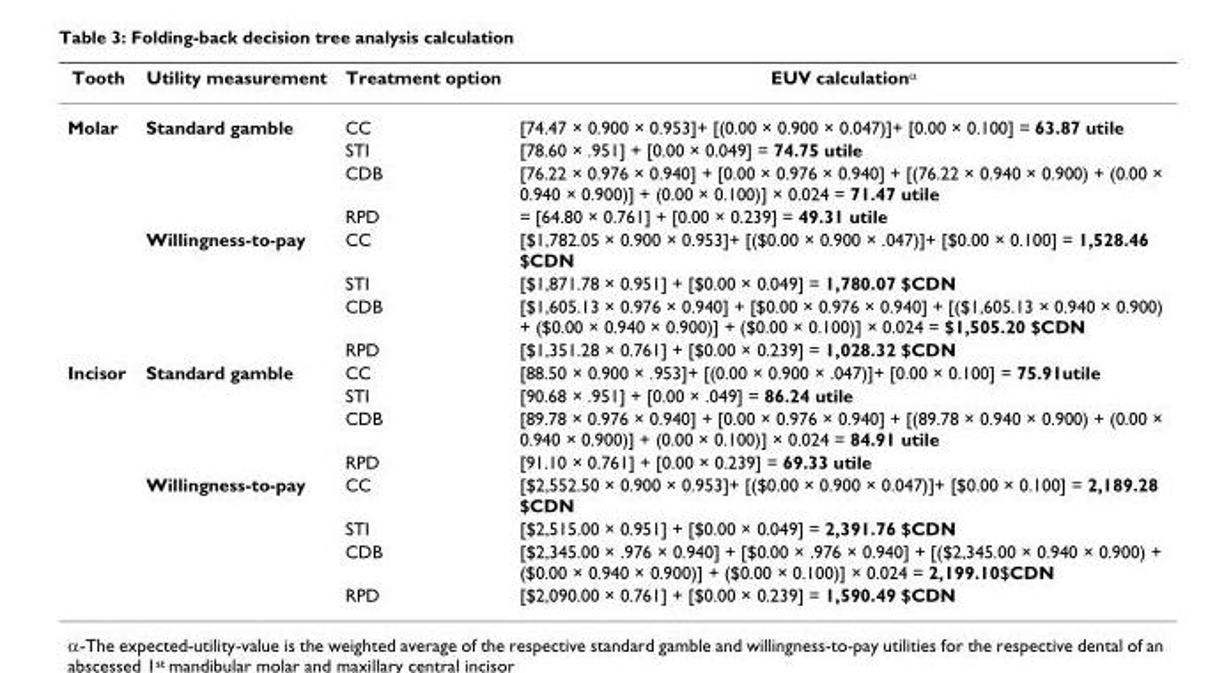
<table><thead><tr><td>Tooth</td><td>Utility measurement</td><td>Treatment option</td><td>EUV calculation<sup>α</sup></td></tr></thead><tbody><tr><td rowspan="8">Molar</td><td>Standard gamble</td><td>CC</td><td>[74.47 × 0.900 × 0.953]+ [(0.00 × 0.900 × 0.047)]+ [0.00 × 0.100] = 63.87 utile</td></tr><tr><td></td><td>STI</td><td>[78.60 × .951] + [0.00 × 0.049] = 74.75 utile</td></tr><tr><td></td><td>CDB</td><td>[76.22 × 0.976 × 0.940] + [0.00 × 0.976 × 0.940] + [(76.22 × 0.940 × 0.900) + (0.00 × 0.940 × 0.900)] + (0.00 × 0.100)] × 0.024 = 71.47 utile</td></tr><tr><td></td><td>RPD</td><td>= [64.80 × 0.761] + [0.00 × 0.239] = 49.31 utile</td></tr><tr><td>Willingness-to-pay</td><td>CC</td><td>[$1,782.05 × 0.900 × 0.953]+ [($0.00 × 0.900 × .047)]+ [$0.00 × 0.100] = 1,528.46 $CDN</td></tr><tr><td></td><td>STI</td><td>[$1,871.78 × 0.951] + [$0.00 × 0.049] = 1,780.07 $CDN</td></tr><tr><td></td><td>CDB</td><td>[$1,605.13 × 0.976 × 0.940] + [$0.00 × 0.976 × 0.940] + [($1,605.13 × 0.940 × 0.900) + ($0.00 × 0.940 × 0.900)] + ($0.00 × 0.100)] × 0.024 = $1,505.20 $CDN</td></tr><tr><td></td><td>RPD</td><td>[$1,351.28 × 0.761] + [$0.00 × 0.239] = 1,028.32 $CDN</td></tr><tr><td rowspan="8">Incisor</td><td>Standard gamble</td><td>CC</td><td>[88.50 × 0.900 × .953]+ [(0.00 × 0.900 × .047)]+ [0.00 × 0.100] = 75.91utile</td></tr><tr><td></td><td>STI</td><td>[90.68 × .951] + [0.00 × .049] = 86.24 utile</td></tr><tr><td></td><td>CDB</td><td>[89.78 × 0.976 × 0.940] + [0.00 × 0.976 × 0.940] + [(89.78 × 0.940 × 0.900) + (0.00 × 0.940 × 0.900)] + (0.00 × 0.100)] × 0.024 = 84.91 utile</td></tr><tr><td></td><td>RPD</td><td>[91.10 × 0.761] + [0.00 × 0.239] = 69.33 utile</td></tr><tr><td>Willingness-to-pay</td><td>CC</td><td>[$2,552.50 × 0.900 × 0.953]+ [($0.00 × 0.900 × 0.047)]+ [$0.00 × 0.100] = 2,189.28 $CDN</td></tr><tr><td></td><td>STI</td><td>[$2,515.00 × 0.951] + [$0.00 × 0.049] = 2,391.76 $CDN</td></tr><tr><td></td><td>CDB</td><td>[$2,345.00 × .976 × 0.940] + [$0.00 × .976 × 0.940] + [($2,345.00 × 0.940 × 0.900) + ($0.00 × 0.940 × 0.900)] + ($0.00 × 0.100)] × 0.024 = 2,199.10$CDN</td></tr><tr><td></td><td>RPD</td><td>[$2,090.00 × 0.761] + [$0.00 × 0.239] = 1,590.49 $CDN</td></tr></tbody></table>